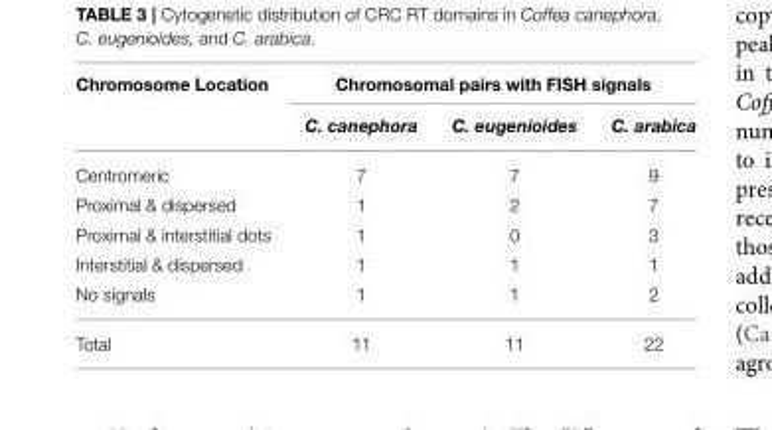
<table><thead><tr><td rowspan="2">Chromosome Location</td><td colspan="3">Chromosomal pairs with FISH signals</td></tr><tr><td>C. canephora</td><td>C. eugenioides</td><td>C. arabica</td></tr></thead><tbody><tr><td>Centromeric</td><td>7</td><td>7</td><td>9</td></tr><tr><td>Proximal &amp; dispersed</td><td>1</td><td>2</td><td>7</td></tr><tr><td>Proximal &amp; interstitial dots</td><td>1</td><td>0</td><td>3</td></tr><tr><td>Interstitial &amp; dispersed</td><td>1</td><td>1</td><td>1</td></tr><tr><td>No signals</td><td>1</td><td>1</td><td>2</td></tr><tr><td>Total</td><td>11</td><td>11</td><td>22</td></tr></tbody></table>